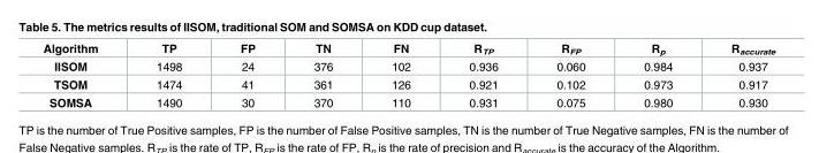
<table><thead><tr><td>Algorithm</td><td>TP</td><td>FP</td><td>TN</td><td>FN</td><td>R<sub>TP</sub></td><td>R<sub>FP</sub></td><td>R<sub>p</sub></td><td>R<sub>accurate</sub></td></tr></thead><tbody><tr><td>IISOM</td><td>1498</td><td>24</td><td>376</td><td>102</td><td>0.936</td><td>0.060</td><td>0.984</td><td>0.937</td></tr><tr><td>TSOM</td><td>1474</td><td>41</td><td>361</td><td>126</td><td>0.921</td><td>0.102</td><td>0.973</td><td>0.917</td></tr><tr><td>SOMSA</td><td>1490</td><td>30</td><td>370</td><td>110</td><td>0.931</td><td>0.075</td><td>0.980</td><td>0.930</td></tr></tbody></table>